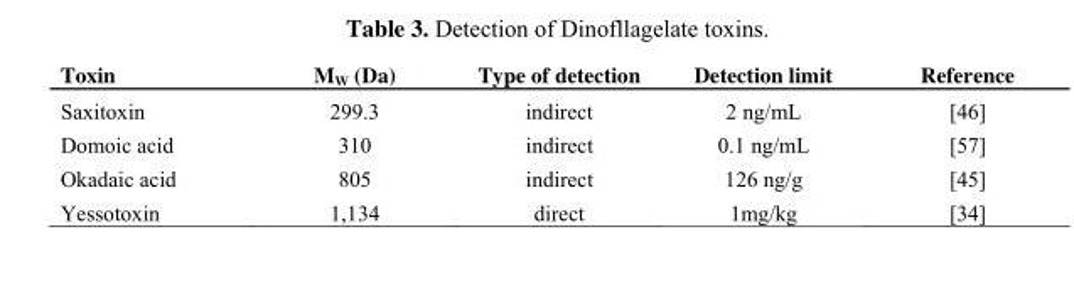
<table><thead><tr><td>Toxin</td><td>M<sub>W</sub> (Da)</td><td>Type of detection</td><td>Detection limit</td><td>Reference</td></tr></thead><tbody><tr><td>Saxitoxin</td><td>299.3</td><td>indirect</td><td>2 ng/mL</td><td>[46]</td></tr><tr><td>Domoic acid</td><td>310</td><td>indirect</td><td>0.1 ng/mL</td><td>[57]</td></tr><tr><td>Okadaic acid</td><td>805</td><td>indirect</td><td>126 ng/g</td><td>[45]</td></tr><tr><td>Yessotoxin</td><td>1,134</td><td>direct</td><td>1mg/kg</td><td>[34]</td></tr></tbody></table>